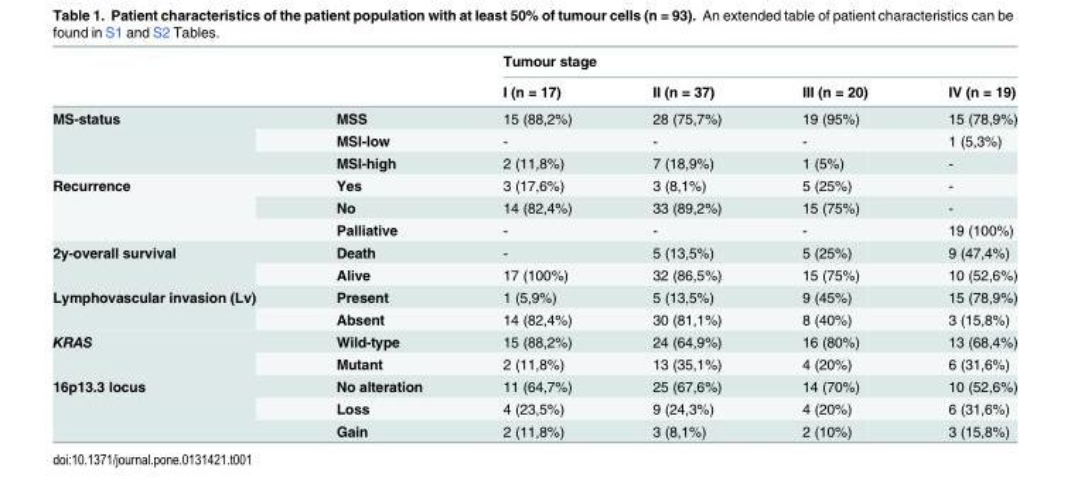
<table><thead><tr><td rowspan="2"></td><td rowspan="2"></td><td colspan="4">Tumour stage</td></tr><tr><td>I (n = 17)</td><td>II (n = 37)</td><td>III (n = 20)</td><td>IV (n = 19)</td></tr></thead><tbody><tr><td rowspan="3">MS-status</td><td>MSS</td><td>15 (88,2%)</td><td>28 (75,7%)</td><td>19 (95%)</td><td>15 (78,9%)</td></tr><tr><td>MSI-low</td><td>-</td><td>-</td><td>-</td><td>1 (5,3%)</td></tr><tr><td>MSI-high</td><td>2 (11,8%)</td><td>7 (18,9%)</td><td>1 (5%)</td><td>-</td></tr><tr><td rowspan="3">Recurrence</td><td>Yes</td><td>3 (17,6%)</td><td>3 (8,1%)</td><td>5 (25%)</td><td>-</td></tr><tr><td>No</td><td>14 (82,4%)</td><td>33 (89,2%)</td><td>15 (75%)</td><td>-</td></tr><tr><td>Palliative</td><td>-</td><td>-</td><td>-</td><td>19 (100%)</td></tr><tr><td rowspan="2">2y-overall survival</td><td>Death</td><td>-</td><td>5 (13,5%)</td><td>5 (25%)</td><td>9 (47,4%)</td></tr><tr><td>Alive</td><td>17 (100%)</td><td>32 (86,5%)</td><td>15 (75%)</td><td>10 (52,6%)</td></tr><tr><td rowspan="2">Lymphovascular invasion (Lv)</td><td>Present</td><td>1 (5,9%)</td><td>5 (13,5%)</td><td>9 (45%)</td><td>15 (78,9%)</td></tr><tr><td>Absent</td><td>14 (82,4%)</td><td>30 (81,1%)</td><td>8 (40%)</td><td>3 (15,8%)</td></tr><tr><td rowspan="2">KRAS</td><td>Wild-type</td><td>15 (88,2%)</td><td>24 (64,9%)</td><td>16 (80%)</td><td>13 (68,4%)</td></tr><tr><td>Mutant</td><td>2 (11,8%)</td><td>13 (35,1%)</td><td>4 (20%)</td><td>6 (31,6%)</td></tr><tr><td rowspan="3">16p13.3 locus</td><td>No alteration</td><td>11 (64,7%)</td><td>25 (67,6%)</td><td>14 (70%)</td><td>10 (52,6%)</td></tr><tr><td>Loss</td><td>4 (23,5%)</td><td>9 (24,3%)</td><td>4 (20%)</td><td>6 (31,6%)</td></tr><tr><td>Gain</td><td>2 (11,8%)</td><td>3 (8,1%)</td><td>2 (10%)</td><td>3 (15,8%)</td></tr></tbody></table>